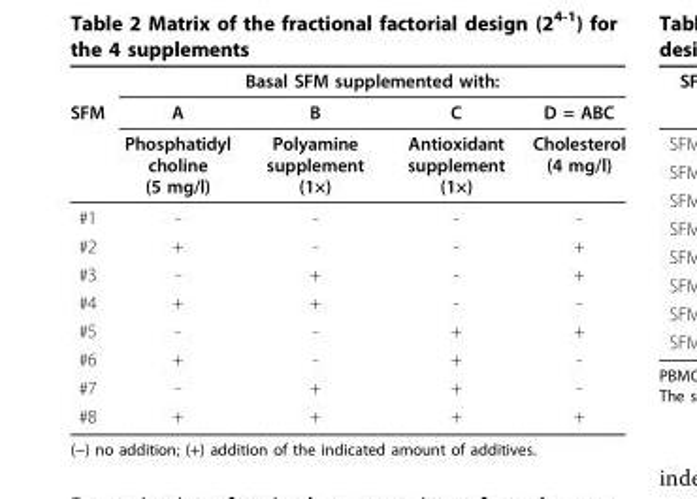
<table><thead><tr><td rowspan="3">SFM</td><td colspan="4">Basal SFM supplemented with:</td></tr><tr><td rowspan="2">A Phosphatidyl choline (5 mg/l)</td><td rowspan="2">B Polyamine supplement (1×)</td><td rowspan="2">C Antioxidant supplement (1×)</td><td rowspan="2">D = ABC Cholesterol (4 mg/l)</td></tr><tr></tr></thead><tbody><tr><td>#1</td><td>-</td><td>-</td><td>-</td><td>-</td></tr><tr><td>#2</td><td>+</td><td>-</td><td>-</td><td>+</td></tr><tr><td>#3</td><td>-</td><td>+</td><td>-</td><td>+</td></tr><tr><td>#4</td><td>+</td><td>+</td><td>-</td><td>-</td></tr><tr><td>#5</td><td>-</td><td>-</td><td>+</td><td>+</td></tr><tr><td>#6</td><td>+</td><td>-</td><td>+</td><td>-</td></tr><tr><td>#7</td><td>-</td><td>+</td><td>+</td><td>-</td></tr><tr><td>#8</td><td>+</td><td>+</td><td>+</td><td>+</td></tr></tbody></table>